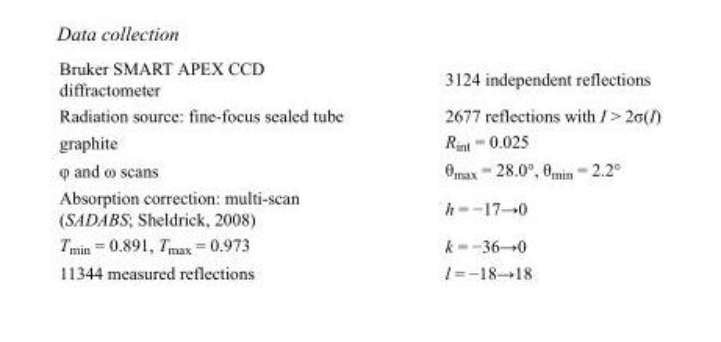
<table><tbody><tr><td>Bruker SMART APEX CCD diffractometer</td><td>3124 independent reflections</td></tr><tr><td>Radiation source: fine-focus sealed tube</td><td>2677 reflections with I &gt; 2σ(I)</td></tr><tr><td>graphite</td><td>R<sub>int</sub> = 0.025</td></tr><tr><td>φ and ω scans</td><td>θ<sub>max</sub> = 28.0°, θ<sub>min</sub> = 2.2°</td></tr><tr><td>Absorption correction: multi-scan (SADABS; Sheldrick, 2008)</td><td>h = −17→0</td></tr><tr><td>T<sub>min</sub> = 0.891, T<sub>max</sub> = 0.973</td><td>k = −36→0</td></tr><tr><td>11344 measured reflections</td><td>l = −18→18</td></tr></tbody></table>